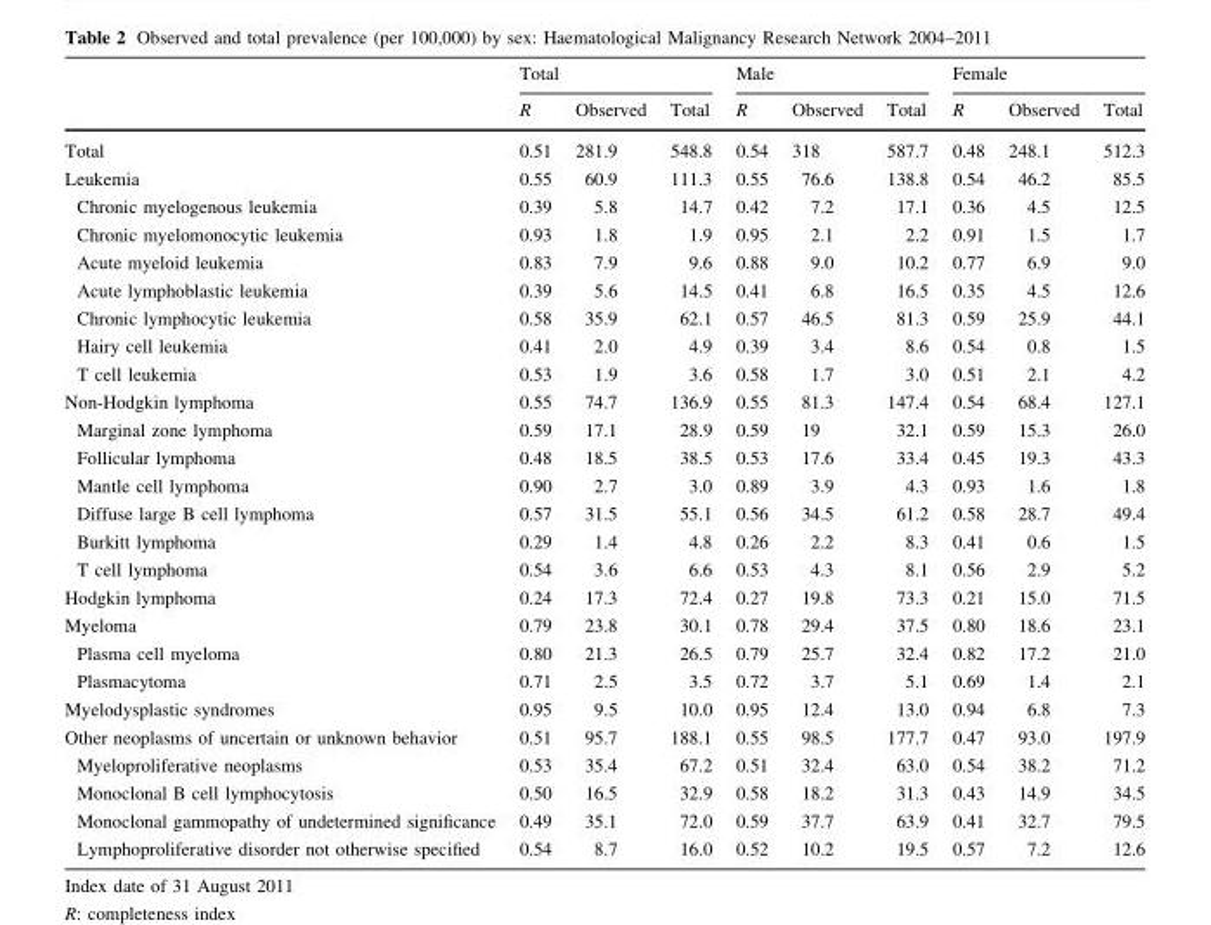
<table><thead><tr><td rowspan="2"></td><td colspan="3">Total</td><td colspan="3">Male</td><td colspan="3">Female</td></tr><tr><td>R</td><td>Observed</td><td>Total</td><td>R</td><td>Observed</td><td>Total</td><td>R</td><td>Observed</td><td>Total</td></tr></thead><tbody><tr><td>Total</td><td>0.51</td><td>281.9</td><td>548.8</td><td>0.54</td><td>318</td><td>587.7</td><td>0.48</td><td>248.1</td><td>512.3</td></tr><tr><td>Leukemia</td><td>0.55</td><td>60.9</td><td>111.3</td><td>0.55</td><td>76.6</td><td>138.8</td><td>0.54</td><td>46.2</td><td>85.5</td></tr><tr><td>Chronic myelogenous leukemia</td><td>0.39</td><td>5.8</td><td>14.7</td><td>0.42</td><td>7.2</td><td>17.1</td><td>0.36</td><td>4.5</td><td>12.5</td></tr><tr><td>Chronic myelomonocytic leukemia</td><td>0.93</td><td>1.8</td><td>1.9</td><td>0.95</td><td>2.1</td><td>2.2</td><td>0.91</td><td>1.5</td><td>1.7</td></tr><tr><td>Acute myeloid leukemia</td><td>0.83</td><td>7.9</td><td>9.6</td><td>0.88</td><td>9.0</td><td>10.2</td><td>0.77</td><td>6.9</td><td>9.0</td></tr><tr><td>Acute lymphoblastic leukemia</td><td>0.39</td><td>5.6</td><td>14.5</td><td>0.41</td><td>6.8</td><td>16.5</td><td>0.35</td><td>4.5</td><td>12.6</td></tr><tr><td>Chronic lymphocytic leukemia</td><td>0.58</td><td>35.9</td><td>62.1</td><td>0.57</td><td>46.5</td><td>81.3</td><td>0.59</td><td>25.9</td><td>44.1</td></tr><tr><td>Hairy cell leukemia</td><td>0.41</td><td>2.0</td><td>4.9</td><td>0.39</td><td>3.4</td><td>8.6</td><td>0.54</td><td>0.8</td><td>1.5</td></tr><tr><td>T cell leukemia</td><td>0.53</td><td>1.9</td><td>3.6</td><td>0.58</td><td>1.7</td><td>3.0</td><td>0.51</td><td>2.1</td><td>4.2</td></tr><tr><td>Non-Hodgkin lymphoma</td><td>0.55</td><td>74.7</td><td>136.9</td><td>0.55</td><td>81.3</td><td>147.4</td><td>0.54</td><td>68.4</td><td>127.1</td></tr><tr><td>Marginal zone lymphoma</td><td>0.59</td><td>17.1</td><td>28.9</td><td>0.59</td><td>19</td><td>32.1</td><td>0.59</td><td>15.3</td><td>26.0</td></tr><tr><td>Follicular lymphoma</td><td>0.48</td><td>18.5</td><td>38.5</td><td>0.53</td><td>17.6</td><td>33.4</td><td>0.45</td><td>19.3</td><td>43.3</td></tr><tr><td>Mantle cell lymphoma</td><td>0.90</td><td>2.7</td><td>3.0</td><td>0.89</td><td>3.9</td><td>4.3</td><td>0.93</td><td>1.6</td><td>1.8</td></tr><tr><td>Diffuse large B cell lymphoma</td><td>0.57</td><td>31.5</td><td>55.1</td><td>0.56</td><td>34.5</td><td>61.2</td><td>0.58</td><td>28.7</td><td>49.4</td></tr><tr><td>Burkitt lymphoma</td><td>0.29</td><td>1.4</td><td>4.8</td><td>0.26</td><td>2.2</td><td>8.3</td><td>0.41</td><td>0.6</td><td>1.5</td></tr><tr><td>T cell lymphoma</td><td>0.54</td><td>3.6</td><td>6.6</td><td>0.53</td><td>4.3</td><td>8.1</td><td>0.56</td><td>2.9</td><td>5.2</td></tr><tr><td>Hodgkin lymphoma</td><td>0.24</td><td>17.3</td><td>72.4</td><td>0.27</td><td>19.8</td><td>73.3</td><td>0.21</td><td>15.0</td><td>71.5</td></tr><tr><td>Myeloma</td><td>0.79</td><td>23.8</td><td>30.1</td><td>0.78</td><td>29.4</td><td>37.5</td><td>0.80</td><td>18.6</td><td>23.1</td></tr><tr><td>Plasma cell myeloma</td><td>0.80</td><td>21.3</td><td>26.5</td><td>0.79</td><td>25.7</td><td>32.4</td><td>0.82</td><td>17.2</td><td>21.0</td></tr><tr><td>Plasmacytoma</td><td>0.71</td><td>2.5</td><td>3.5</td><td>0.72</td><td>3.7</td><td>5.1</td><td>0.69</td><td>1.4</td><td>2.1</td></tr><tr><td>Myelodysplastic syndromes</td><td>0.95</td><td>9.5</td><td>10.0</td><td>0.95</td><td>12.4</td><td>13.0</td><td>0.94</td><td>6.8</td><td>7.3</td></tr><tr><td>Other neoplasms of uncertain or unknown behavior</td><td>0.51</td><td>95.7</td><td>188.1</td><td>0.55</td><td>98.5</td><td>177.7</td><td>0.47</td><td>93.0</td><td>197.9</td></tr><tr><td>Myeloproliferative neoplasms</td><td>0.53</td><td>35.4</td><td>67.2</td><td>0.51</td><td>32.4</td><td>63.0</td><td>0.54</td><td>38.2</td><td>71.2</td></tr><tr><td>Monoclonal B cell lymphocytosis</td><td>0.50</td><td>16.5</td><td>32.9</td><td>0.58</td><td>18.2</td><td>31.3</td><td>0.43</td><td>14.9</td><td>34.5</td></tr><tr><td>Monoclonal gammopathy of undetermined significance</td><td>0.49</td><td>35.1</td><td>72.0</td><td>0.59</td><td>37.7</td><td>63.9</td><td>0.41</td><td>32.7</td><td>79.5</td></tr><tr><td>Lymphoproliferative disorder not otherwise specified</td><td>0.54</td><td>8.7</td><td>16.0</td><td>0.52</td><td>10.2</td><td>19.5</td><td>0.57</td><td>7.2</td><td>12.6</td></tr></tbody></table>